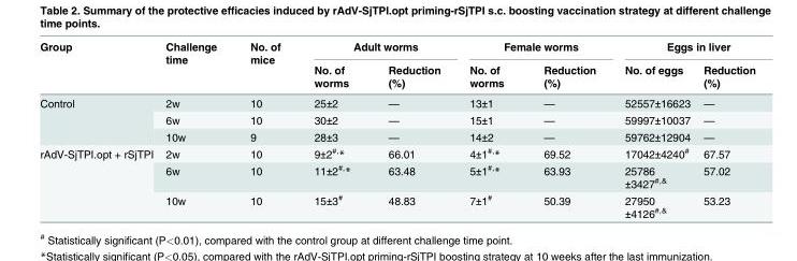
<table><thead><tr><td rowspan="2">Group</td><td rowspan="2">Challenge time</td><td rowspan="2">No. of mice</td><td colspan="2">Adult worms</td><td colspan="2">Female worms</td><td colspan="2">Eggs in liver</td></tr><tr><td>No. of worms</td><td>Reduction (%)</td><td>No. of worms</td><td>Reduction (%)</td><td>No. of eggs</td><td>Reduction (%)</td></tr></thead><tbody><tr><td rowspan="3">Control</td><td>2w</td><td>10</td><td>25±2</td><td>—</td><td>13±1</td><td>—</td><td>52557±16623</td><td>—</td></tr><tr><td>6w</td><td>10</td><td>30±2</td><td>—</td><td>15±1</td><td>—</td><td>59997±10037</td><td>—</td></tr><tr><td>10w</td><td>9</td><td>28±3</td><td>—</td><td>14±2</td><td>—</td><td>59762±12904</td><td>—</td></tr><tr><td rowspan="3">rAdV-SjTPI.opt + rSjTPI</td><td>2w</td><td>10</td><td>9±2<sup>#,</sup>*</td><td>66.01</td><td>4±1<sup>#,</sup>*</td><td>69.52</td><td>17042±4240<sup>#</sup></td><td>67.57</td></tr><tr><td>6w</td><td>10</td><td>11±2<sup>#,</sup>*</td><td>63.48</td><td>5±1<sup>#,</sup>*</td><td>63.93</td><td>25786 ±3427<sup>#,&amp;</sup></td><td>57.02</td></tr><tr><td>10w</td><td>10</td><td>15±3<sup>#</sup></td><td>48.83</td><td>7±1<sup>#</sup></td><td>50.39</td><td>27950 ±4126<sup>#,&amp;</sup></td><td>53.23</td></tr></tbody></table>